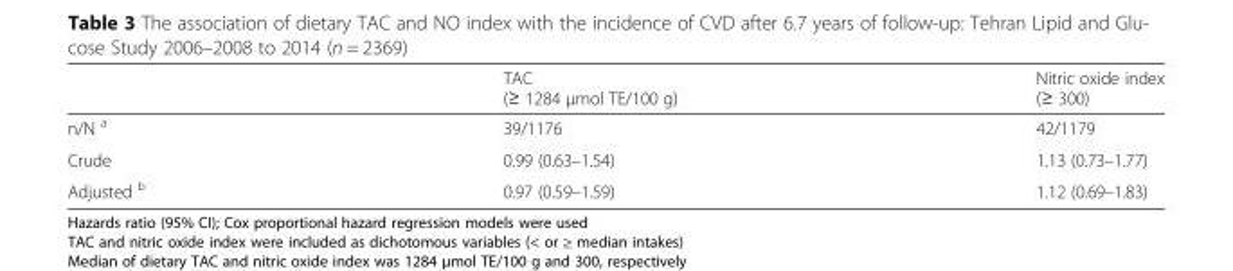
<table><thead><tr><td></td><td>TAC (≥ 1284 μmol TE/100 g)</td><td>Nitric oxide index (≥ 300)</td></tr></thead><tbody><tr><td>n/N <sup>a</sup></td><td>39/1176</td><td>42/1179</td></tr><tr><td>Crude</td><td>0.99 (0.63–1.54)</td><td>1.13 (0.73–1.77)</td></tr><tr><td>Adjusted <sup>b</sup></td><td>0.97 (0.59–1.59)</td><td>1.12 (0.69–1.83)</td></tr></tbody></table>